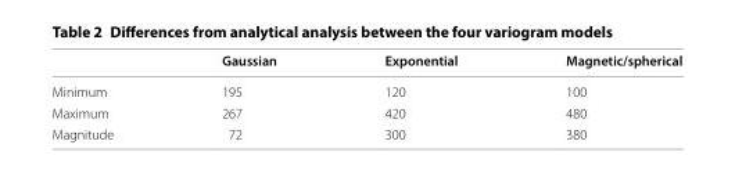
<table><thead><tr><td></td><td>Gaussian</td><td>Exponential</td><td>Magnetic/spherical</td></tr></thead><tbody><tr><td>Minimum</td><td>195</td><td>120</td><td>100</td></tr><tr><td>Maximum</td><td>267</td><td>420</td><td>480</td></tr><tr><td>Magnitude</td><td>72</td><td>300</td><td>380</td></tr></tbody></table>